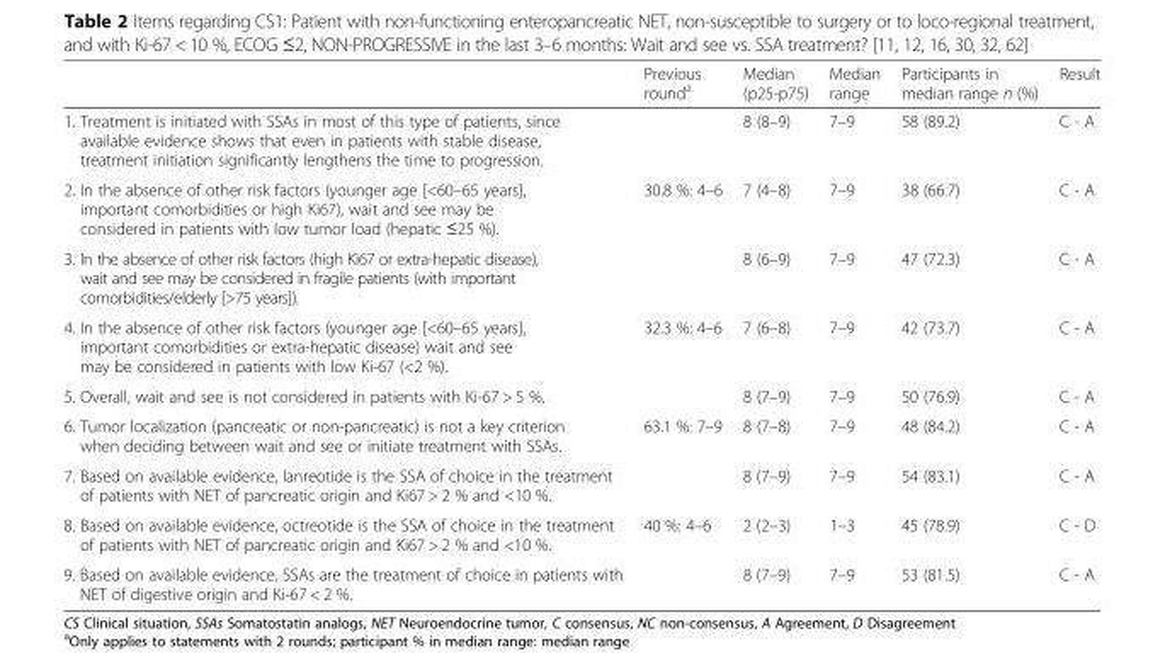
<table><thead><tr><td></td><td>Previous round<sup>a</sup></td><td>Median (p25-p75)</td><td>Median range</td><td>Participants in median range n (%)</td><td>Result</td></tr></thead><tbody><tr><td>1. Treatment is initiated with SSAs in most of this type of patients, since available evidence shows that even in patients with stable disease, treatment initiation significantly lengthens the time to progression.</td><td></td><td>8 (8–9)</td><td>7–9</td><td>58 (89.2)</td><td>C - A</td></tr><tr><td>2. In the absence of other risk factors (younger age [&lt;60–65 years], important comorbidities or high Ki67), wait and see may be considered in patients with low tumor load (hepatic ≤25 %).</td><td>30.8 %: 4–6</td><td>7 (4–8)</td><td>7–9</td><td>38 (66.7)</td><td>C - A</td></tr><tr><td>3. In the absence of other risk factors (high Ki67 or extra-hepatic disease), wait and see may be considered in fragile patients (with important comorbidities/elderly [&gt;75 years]).</td><td></td><td>8 (6–9)</td><td>7–9</td><td>47 (72.3)</td><td>C - A</td></tr><tr><td>4. In the absence of other risk factors (younger age [&lt;60–65 years], important comorbidities or extra-hepatic disease) wait and see may be considered in patients with low Ki-67 (&lt;2 %).</td><td>32.3 %: 4–6</td><td>7 (6–8)</td><td>7–9</td><td>42 (73.7)</td><td>C - A</td></tr><tr><td>5. Overall, wait and see is not considered in patients with Ki-67 &gt; 5 %.</td><td></td><td>8 (7–9)</td><td>7–9</td><td>50 (76.9)</td><td>C - A</td></tr><tr><td>6. Tumor localization (pancreatic or non-pancreatic) is not a key criterion when deciding between wait and see or initiate treatment with SSAs.</td><td>63.1 %: 7–9</td><td>8 (7–8)</td><td>7–9</td><td>48 (84.2)</td><td>C - A</td></tr><tr><td>7. Based on available evidence, lanreotide is the SSA of choice in the treatment of patients with NET of pancreatic origin and Ki67 &gt; 2 % and &lt;10 %.</td><td></td><td>8 (7–9)</td><td>7–9</td><td>54 (83.1)</td><td>C - A</td></tr><tr><td>8. Based on available evidence, octreotide is the SSA of choice in the treatment of patients with NET of pancreatic origin and Ki67 &gt; 2 % and &lt;10 %.</td><td>40 %: 4–6</td><td>2 (2–3)</td><td>1–3</td><td>45 (78.9)</td><td>C - D</td></tr><tr><td>9. Based on available evidence, SSAs are the treatment of choice in patients with NET of digestive origin and Ki-67 &lt; 2 %.</td><td></td><td>8 (7–9)</td><td>7–9</td><td>53 (81.5)</td><td>C - A</td></tr></tbody></table>